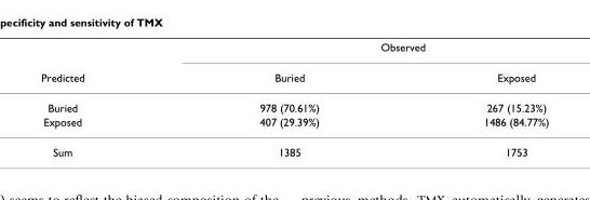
<table><thead><tr><td rowspan="2">Predicted</td><td colspan="2">Observed</td></tr><tr><td>Buried</td><td>Exposed</td></tr></thead><tbody><tr><td>Buried</td><td>978 (70.61%)</td><td>267 (15.23%)</td></tr><tr><td>Exposed</td><td>407 (29.39%)</td><td>1486 (84.77%)</td></tr><tr><td>Sum</td><td>1385</td><td>1753</td></tr></tbody></table>